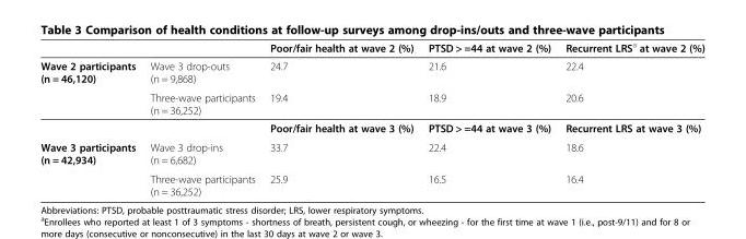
<table><thead><tr><td></td><td></td><td>Poor/fair health at wave 2 (%)</td><td>PTSD &gt; =44 at wave 2 (%)</td><td>Recurrent LRS<sup>a</sup> at wave 2 (%)</td></tr></thead><tbody><tr><td rowspan="3">Wave 2 participants (n = 46,120)</td><td>Wave 3 drop-outs (n = 9,868)</td><td>24.7</td><td>21.6</td><td>22.4</td></tr><tr><td>Three-wave participants (n = 36,252)</td><td>19.4</td><td>18.9</td><td>20.6</td></tr><tr><td></td><td>Poor/fair health at wave 3 (%)</td><td>PTSD &gt; =44 at wave 3 (%)</td><td>Recurrent LRS at wave 3 (%)</td></tr><tr><td rowspan="2">Wave 3 participants (n = 42,934)</td><td>Wave 3 drop-ins (n = 6,682)</td><td>33.7</td><td>22.4</td><td>18.6</td></tr><tr><td>Three-wave participants (n = 36,252)</td><td>25.9</td><td>16.5</td><td>16.4</td></tr></tbody></table>